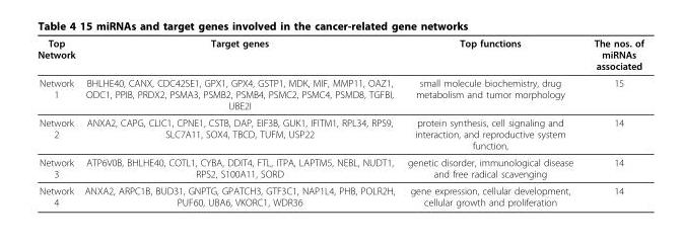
<table><thead><tr><td>Top Network</td><td>Target genes</td><td>Top functions</td><td>The nos. of miRNAs associated</td></tr></thead><tbody><tr><td>Network 1</td><td>BHLHE40, CANX, CDC42SE1, GPX1, GPX4, GSTP1, MDK, MIF, MMP11, OAZ1, ODC1, PPIB, PRDX2, PSMA3, PSMB2, PSMB4, PSMC2, PSMC4, PSMD8, TGFBI, UBE2I</td><td>small molecule biochemistry, drug metabolism and tumor morphology</td><td>15</td></tr><tr><td>Network 2</td><td>ANXA2, CAPG, CLIC1, CPNE1, CSTB, DAP, EIF3B, GUK1, IFITM1, RPL34, RPS9, SLC7A11, SOX4, TBCD, TUFM, USP22</td><td>protein synthesis, cell signaling and interaction, and reproductive system function,</td><td>14</td></tr><tr><td>Network 3</td><td>ATP6V0B, BHLHE40, COTL1, CYBA, DDIT4, FTL, ITPA, LAPTM5, NEBL, NUDT1, RPS2, S100A11, SORD</td><td>genetic disorder, immunological disease and free radical scavenging</td><td>14</td></tr><tr><td>Network 4</td><td>ANXA2, ARPC1B, BUD31, GNPTG, GPATCH3, GTF3C1, NAP1L4, PHB, POLR2H, PUF60, UBA6, VKORC1, WDR36</td><td>gene expression, cellular development, cellular growth and proliferation</td><td>14</td></tr></tbody></table>